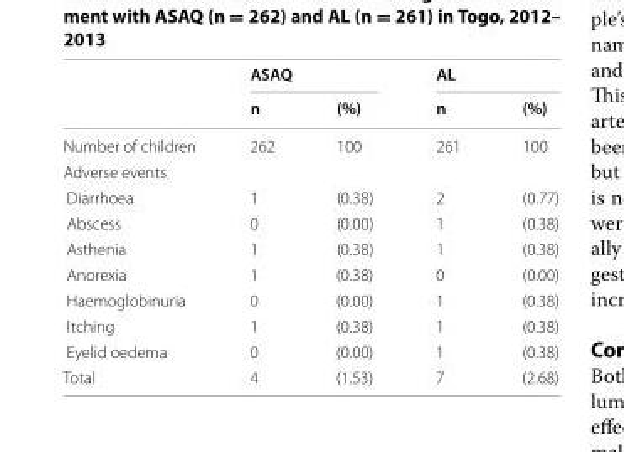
<table><thead><tr><td rowspan="2"></td><td colspan="2">ASAQ</td><td colspan="2">AL</td></tr><tr><td>n</td><td>(%)</td><td>n</td><td>(%)</td></tr></thead><tbody><tr><td>Number of children</td><td>262</td><td>100</td><td>261</td><td>100</td></tr><tr><td colspan="5">Adverse events</td></tr><tr><td>Diarrhoea</td><td>1</td><td>(0.38)</td><td>2</td><td>(0.77)</td></tr><tr><td>Abscess</td><td>0</td><td>(0.00)</td><td>1</td><td>(0.38)</td></tr><tr><td>Asthenia</td><td>1</td><td>(0.38)</td><td>1</td><td>(0.38)</td></tr><tr><td>Anorexia</td><td>1</td><td>(0.38)</td><td>0</td><td>(0.00)</td></tr><tr><td>Haemoglobinuria</td><td>0</td><td>(0.00)</td><td>1</td><td>(0.38)</td></tr><tr><td>Itching</td><td>1</td><td>(0.38)</td><td>1</td><td>(0.38)</td></tr><tr><td>Eyelid oedema</td><td>0</td><td>(0.00)</td><td>1</td><td>(0.38)</td></tr><tr><td>Total</td><td>4</td><td>(1.53)</td><td>7</td><td>(2.68)</td></tr></tbody></table>